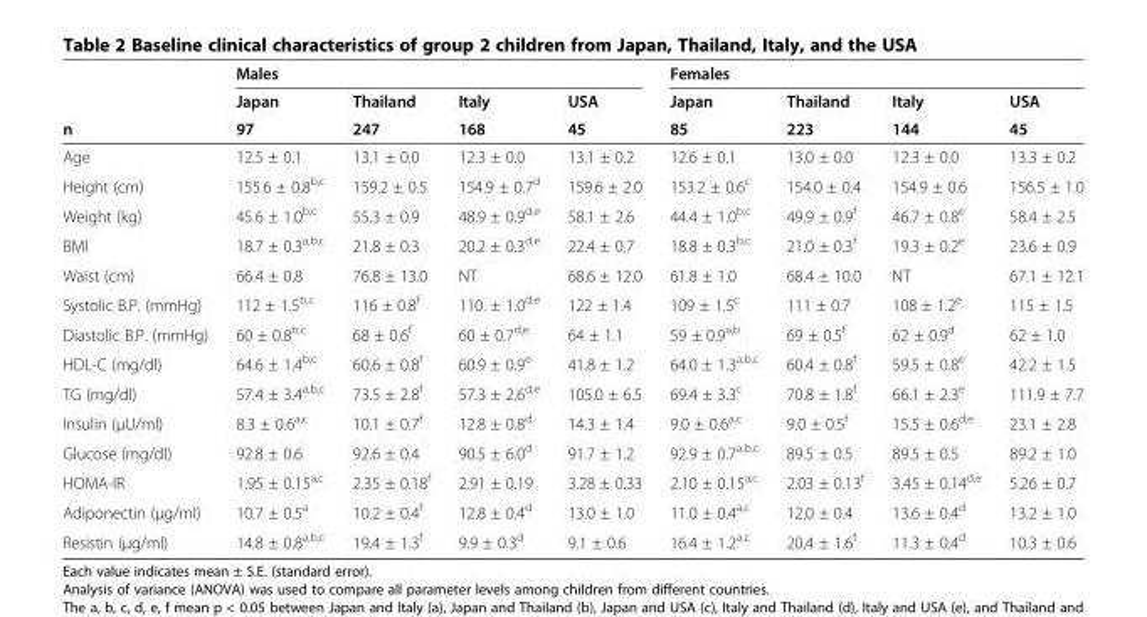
<table><thead><tr><td rowspan="3">n</td><td rowspan="3">Males Japan 97</td><td rowspan="3">Thailand 247</td><td rowspan="3">Italy 168</td><td rowspan="3">USA 45</td><td rowspan="3">Females Japan 85</td><td rowspan="3">Thailand 223</td><td rowspan="3">Italy 144</td><td rowspan="3">USA 45</td></tr><tr></tr><tr></tr></thead><tbody><tr><td>Age</td><td>12.5 ± 0.1</td><td>13.1 ± 0.0</td><td>12.3 ± 0.0</td><td>13.1 ± 0.2</td><td>12.6 ± 0.1</td><td>13.0 ± 0.0</td><td>12.3 ± 0.0</td><td>13.3 ± 0.2</td></tr><tr><td>Height (cm)</td><td>155.6 ± 0.8<sup>b,c</sup></td><td>159.2 ± 0.5</td><td>154.9 ± 0.7<sup>d</sup></td><td>159.6 ± 2.0</td><td>153.2 ± 0.6<sup>c</sup></td><td>154.0 ± 0.4</td><td>154.9 ± 0.6</td><td>156.5 ± 1.0</td></tr><tr><td>Weight (kg)</td><td>45.6 ± 1.0<sup>b,c</sup></td><td>55.3 ± 0.9</td><td>48.9 ± 0.9<sup>d,e</sup></td><td>58.1 ± 2.6</td><td>44.4 ± 1.0<sup>b,c</sup></td><td>49.9 ± 0.9<sup>f</sup></td><td>46.7 ± 0.8<sup>e</sup></td><td>58.4 ± 2.5</td></tr><tr><td>BMI</td><td>18.7 ± 0.3<sup>a,b,c</sup></td><td>21.8 ± 0.3</td><td>20.2 ± 0.3<sup>d,e</sup></td><td>22.4 ± 0.7</td><td>18.8 ± 0.3<sup>b,c</sup></td><td>21.0 ± 0.3<sup>f</sup></td><td>19.3 ± 0.2<sup>e</sup></td><td>23.6 ± 0.9</td></tr><tr><td>Waist (cm)</td><td>66.4 ± 0.8</td><td>76.8 ± 13.0</td><td>NT</td><td>68.6 ± 12.0</td><td>61.8 ± 1.0</td><td>68.4 ± 10.0</td><td>NT</td><td>67.1 ± 12.1</td></tr><tr><td>Systolic B.P. (mmHg)</td><td>112 ± 1.5<sup>b,c</sup></td><td>116 ± 0.8<sup>f</sup></td><td>110. ± 1.0<sup>d,e</sup></td><td>122 ± 1.4</td><td>109 ± 1.5<sup>c</sup></td><td>111 ± 0.7</td><td>108 ± 1.2<sup>e</sup></td><td>115 ± 1.5</td></tr><tr><td>Diastolic B.P. (mmHg)</td><td>60 ± 0.8<sup>b,c</sup></td><td>68 ± 0.6<sup>f</sup></td><td>60 ± 0.7<sup>d,e</sup></td><td>64 ± 1.1</td><td>59 ± 0.9<sup>a,b</sup></td><td>69 ± 0.5<sup>f</sup></td><td>62 ± 0.9<sup>d</sup></td><td>62 ± 1.0</td></tr><tr><td>HDL-C (mg/dl)</td><td>64.6 ± 1.4<sup>b,c</sup></td><td>60.6 ± 0.8<sup>f</sup></td><td>60.9 ± 0.9<sup>e</sup></td><td>41.8 ± 1.2</td><td>64.0 ± 1.3<sup>a,b,c</sup></td><td>60.4 ± 0.8<sup>f</sup></td><td>59.5 ± 0.8<sup>e</sup></td><td>42.2 ± 1.5</td></tr><tr><td>TG (mg/dl)</td><td>57.4 ± 3.4<sup>a,b,c</sup></td><td>73.5 ± 2.8<sup>f</sup></td><td>57.3 ± 2.6<sup>d,e</sup></td><td>105.0 ± 6.5</td><td>69.4 ± 3.3<sup>c</sup></td><td>70.8 ± 1.8<sup>f</sup></td><td>66.1 ± 2.3<sup>e</sup></td><td>111.9 ± 7.7</td></tr><tr><td>Insulin (μU/ml)</td><td>8.3 ± 0.6<sup>a,c</sup></td><td>10.1 ± 0.7<sup>f</sup></td><td>12.8 ± 0.8<sup>d</sup></td><td>14.3 ± 1.4</td><td>9.0 ± 0.6<sup>a,c</sup></td><td>9.0 ± 0.5<sup>f</sup></td><td>15.5 ± 0.6<sup>d,e</sup></td><td>23.1 ± 2.8</td></tr><tr><td>Glucose (mg/dl)</td><td>92.8 ± 0.6</td><td>92.6 ± 0.4</td><td>90.5 ± 6.0<sup>d</sup></td><td>91.7 ± 1.2</td><td>92.9 ± 0.7<sup>a,b,c</sup></td><td>89.5 ± 0.5</td><td>89.5 ± 0.5</td><td>89.2 ± 1.0</td></tr><tr><td>HOMA-IR</td><td>1.95 ± 0.15<sup>a,c</sup></td><td>2.35 ± 0.18<sup>f</sup></td><td>2.91 ± 0.19</td><td>3.28 ± 0.33</td><td>2.10 ± 0.15<sup>a,c</sup></td><td>2.03 ± 0.13<sup>f</sup></td><td>3.45 ± 0.14<sup>d,e</sup></td><td>5.26 ± 0.7</td></tr><tr><td>Adiponectin (μg/ml)</td><td>10.7 ± 0.5<sup>a</sup></td><td>10.2 ± 0.4<sup>f</sup></td><td>12.8 ± 0.4<sup>d</sup></td><td>13.0 ± 1.0</td><td>11.0 ± 0.4<sup>a,c</sup></td><td>12.0 ± 0.4</td><td>13.6 ± 0.4<sup>d</sup></td><td>13.2 ± 1.0</td></tr><tr><td>Resistin (μg/ml)</td><td>14.8 ± 0.8<sup>a,b,c</sup></td><td>19.4 ± 1.3<sup>f</sup></td><td>9.9 ± 0.3<sup>d</sup></td><td>9.1 ± 0.6</td><td>16.4 ± 1.2<sup>a,c</sup></td><td>20.4 ± 1.6<sup>f</sup></td><td>11.3 ± 0.4<sup>d</sup></td><td>10.3 ± 0.6</td></tr></tbody></table>